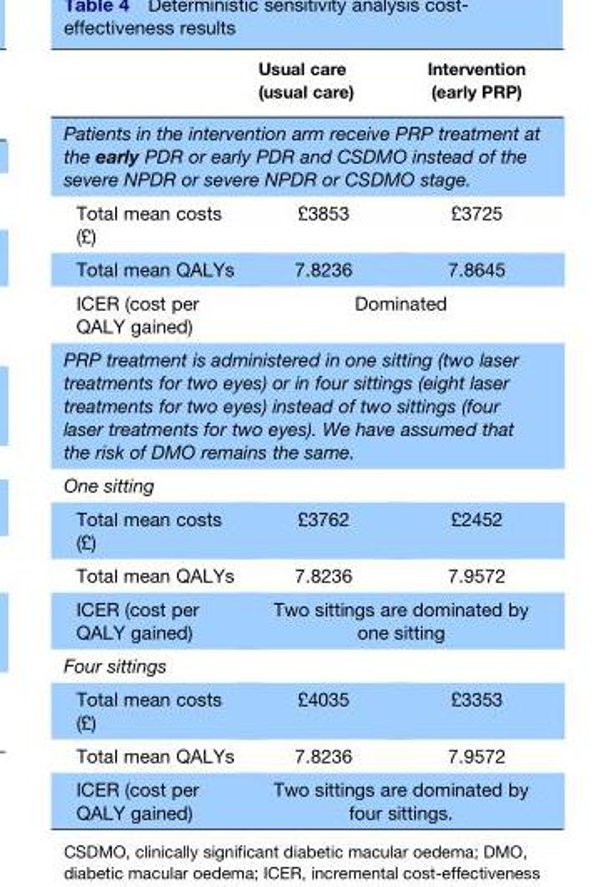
<table><thead><tr><td></td><td>Usual care (usual care)</td><td>Intervention (early PRP)</td></tr></thead><tbody><tr><td colspan="3">Patients in the intervention arm receive PRP treatment at the early PDR or early PDR and CSDMO instead of the severe NPDR or severe NPDR or CSDMO stage.</td></tr><tr><td>Total mean costs (£)</td><td>£3853</td><td>£3725</td></tr><tr><td>Total mean QALYs</td><td>7.8236</td><td>7.8645</td></tr><tr><td>ICER (cost per QALY gained)</td><td colspan="2">Dominated</td></tr><tr><td colspan="3">PRP treatment is administered in one sitting (two laser treatments for two eyes) or in four sittings (eight laser treatments for two eyes) instead of two sittings (four laser treatments for two eyes). We have assumed that the risk of DMO remains the same.</td></tr><tr><td colspan="3">One sitting</td></tr><tr><td>Total mean costs (£)</td><td>£3762</td><td>£2452</td></tr><tr><td>Total mean QALYs</td><td>7.8236</td><td>7.9572</td></tr><tr><td>ICER (cost per QALY gained)</td><td colspan="2">Two sittings are dominated by one sitting</td></tr><tr><td colspan="3">Four sittings</td></tr><tr><td>Total mean costs (£)</td><td>£4035</td><td>£3353</td></tr><tr><td>Total mean QALYs</td><td>7.8236</td><td>7.9572</td></tr><tr><td>ICER (cost per QALY gained)</td><td colspan="2">Two sittings are dominated by four sittings.</td></tr></tbody></table>